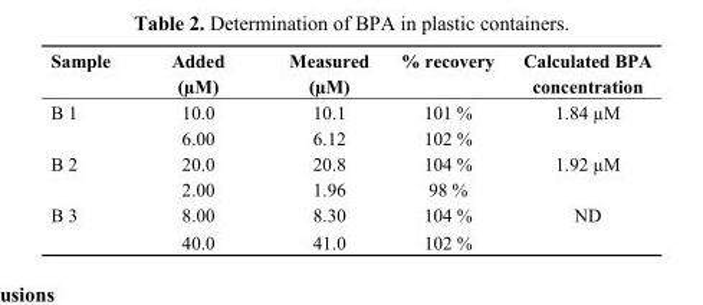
<table><thead><tr><td>Sample</td><td>Added (µM)</td><td>Measured (µM)</td><td>% recovery</td><td>Calculated BPA concentration</td></tr></thead><tbody><tr><td rowspan="2">B 1</td><td>10.0</td><td>10.1</td><td>101 %</td><td rowspan="2">1.84 µM</td></tr><tr><td>6.00</td><td>6.12</td><td>102 %</td></tr><tr><td rowspan="2">B 2</td><td>20.0</td><td>20.8</td><td>104 %</td><td rowspan="2">1.92 µM</td></tr><tr><td>2.00</td><td>1.96</td><td>98 %</td></tr><tr><td rowspan="2">B 3</td><td>8.00</td><td>8.30</td><td>104 %</td><td rowspan="2">ND</td></tr><tr><td>40.0</td><td>41.0</td><td>102 %</td></tr></tbody></table>